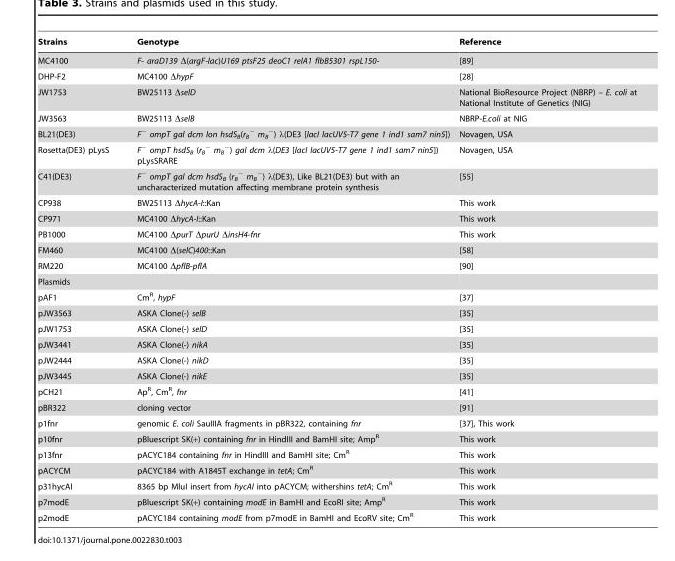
<table><thead><tr><td>Strains</td><td>Genotype</td><td>Reference</td></tr></thead><tbody><tr><td>MC4100</td><td>F- araD139 Δ(argF-lac)U169 ptsF25 deoC1 relA1 flbB5301 rspL150-</td><td>[89]</td></tr><tr><td>DHP-F2</td><td>MC4100 ΔhypF</td><td>[28]</td></tr><tr><td>JW1753</td><td>BW25113 ΔselD</td><td>National BioResource Project (NBRP) – E. coli at National Institute of Genetics (NIG)</td></tr><tr><td>JW3563</td><td>BW25113 ΔselB</td><td>NBRP-E.coli at NIG</td></tr><tr><td>BL21(DE3)</td><td>F<sup>−</sup> ompT gal dcm lon hsdS<sub>B</sub>(r<sub>B</sub> <sup>−</sup> m<sub>B</sub> <sup>−</sup>) λ(DE3 [lacI lacUV5-T7 gene 1 ind1 sam7 nin5])</td><td>Novagen, USA</td></tr><tr><td>Rosetta(DE3) pLysS</td><td>F<sup>−</sup> ompT hsdS<sub>B</sub> (r<sub>B</sub> <sup>−</sup> m<sub>B</sub> <sup>−</sup>) gal dcm λ(DE3 [lacI lacUV5-T7 gene 1 ind1 sam7 nin5]) pLysSRARE</td><td>Novagen, USA</td></tr><tr><td>C41(DE3)</td><td>F<sup>−</sup> ompT gal dcm hsdS<sub>B</sub> (r<sub>B</sub> <sup>−</sup> m<sub>B</sub> <sup>−</sup>) λ(DE3), Like BL21(DE3) but with an uncharacterized mutation affecting membrane protein synthesis</td><td>[55]</td></tr><tr><td>CP938</td><td>BW25113 ΔhycA-I::Kan</td><td>This work</td></tr><tr><td>CP971</td><td>MC4100 ΔhycA-I::Kan</td><td>This work</td></tr><tr><td>PB1000</td><td>MC4100 ΔpurT ΔpurU ΔinsH4-fnr</td><td>This work</td></tr><tr><td>FM460</td><td>MC4100 Δ(selC)400::Kan</td><td>[58]</td></tr><tr><td>RM220</td><td>MC4100 ΔpflB-pflA</td><td>[90]</td></tr><tr><td colspan="3">Plasmids</td></tr><tr><td>pAF1</td><td>Cm<sup>R</sup>, hypF</td><td>[37]</td></tr><tr><td>pJW3563</td><td>ASKA Clone(-) selB</td><td>[35]</td></tr><tr><td>pJW1753</td><td>ASKA Clone(-) selD</td><td>[35]</td></tr><tr><td>pJW3441</td><td>ASKA Clone(-) nikA</td><td>[35]</td></tr><tr><td>pJW2444</td><td>ASKA Clone(-) nikD</td><td>[35]</td></tr><tr><td>pJW3445</td><td>ASKA Clone(-) nikE</td><td>[35]</td></tr><tr><td>pCH21</td><td>Ap<sup>R</sup>, Cm<sup>R</sup>, fnr</td><td>[41]</td></tr><tr><td>pBR322</td><td>cloning vector</td><td>[91]</td></tr><tr><td>p1fnr</td><td>genomic E. coli SauIIIA fragments in pBR322, containing fnr</td><td>[37], This work</td></tr><tr><td>p10fnr</td><td>pBluescript SK(+) containing fnr in HindIII and BamHI site; Amp<sup>R</sup></td><td>This work</td></tr><tr><td>p13fnr</td><td>pACYC184 containing fnr in HindIII and BamHI site; Cm<sup>R</sup></td><td>This work</td></tr><tr><td>pACYCM</td><td>pACYC184 with A1845T exchange in tetA; Cm<sup>R</sup></td><td>This work</td></tr><tr><td>p31hycAI</td><td>8365 bp MluI insert from hycAI into pACYCM; withershins tetA; Cm<sup>R</sup></td><td>This work</td></tr><tr><td>p7modE</td><td>pBluescript SK(+) containing modE in BamHI and EcoRI site; Amp<sup>R</sup></td><td>This work</td></tr><tr><td>p2modE</td><td>pACYC184 containing modE from p7modE in BamHI and EcoRV site; Cm<sup>R</sup></td><td>This work</td></tr></tbody></table>